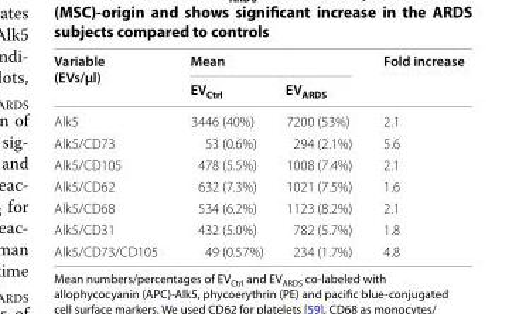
<table><thead><tr><td rowspan="2">Variable (EVs/μl)</td><td colspan="2">Mean</td><td rowspan="2">Fold increase</td></tr><tr><td>EV<sub>Ctrl</sub></td><td>EV<sub>ARDS</sub></td></tr></thead><tbody><tr><td>Alk5</td><td>3446 (40%)</td><td>7200 (53%)</td><td>2.1</td></tr><tr><td>Alk5/CD73</td><td>53 (0.6%)</td><td>294 (2.1%)</td><td>5.6</td></tr><tr><td>Alk5/CD105</td><td>478 (5.5%)</td><td>1008 (7.4%)</td><td>2.1</td></tr><tr><td>Alk5/CD62</td><td>632 (7.3%)</td><td>1021 (7.5%)</td><td>1.6</td></tr><tr><td>Alk5/CD68</td><td>534 (6.2%)</td><td>1123 (8.2%)</td><td>2.1</td></tr><tr><td>Alk5/CD31</td><td>432 (5.0%)</td><td>782 (5.7%)</td><td>1.8</td></tr><tr><td>Alk5/CD73/CD105</td><td>49 (0.57%)</td><td>234 (1.7%)</td><td>4.8</td></tr></tbody></table>